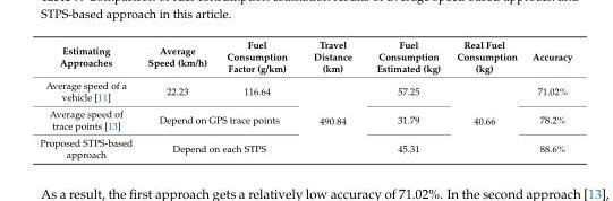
<table><thead><tr><td>Estimating Approaches</td><td>Average Speed (km/h)</td><td>Fuel Consumption Factor (g/km)</td><td>Travel Distance (km)</td><td>Fuel Consumption Estimated (kg)</td><td>Real Fuel Consumption (kg)</td><td>Accuracy</td></tr></thead><tbody><tr><td>Average speed of a vehicle [11]</td><td>22.23</td><td>116.64</td><td rowspan="3">490.84</td><td>57.25</td><td rowspan="3">40.66</td><td>71.02%</td></tr><tr><td>Average speed of trace points [13]</td><td colspan="2">Depend on GPS trace points</td><td>31.79</td><td>78.2%</td></tr><tr><td>Proposed STPS-based approach</td><td colspan="2">Depend on each STPS</td><td>45.31</td><td>88.6%</td></tr></tbody></table>